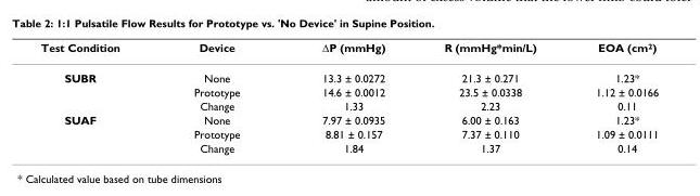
<table><thead><tr><td>Test Condition</td><td>Device</td><td>ΔP (mmHg)</td><td>R (mmHg*min/L)</td><td>EOA (cm<sup>2</sup>)</td></tr></thead><tbody><tr><td rowspan="3">SUBR</td><td>None</td><td>13.3 ± 0.0272</td><td>21.3 ± 0.271</td><td>1.23*</td></tr><tr><td>Prototype</td><td>14.6 ± 0.0012</td><td>23.5 ± 0.0338</td><td>1.12 ± 0.0166</td></tr><tr><td>Change</td><td>1.33</td><td>2.23</td><td>0.11</td></tr><tr><td rowspan="3">SUAF</td><td>None</td><td>7.97 ± 0.0935</td><td>6.00 ± 0.163</td><td>1.23*</td></tr><tr><td>Prototype</td><td>8.81 ± 0.157</td><td>7.37 ± 0.110</td><td>1.09 ± 0.0111</td></tr><tr><td>Change</td><td>1.84</td><td>1.37</td><td>0.14</td></tr></tbody></table>